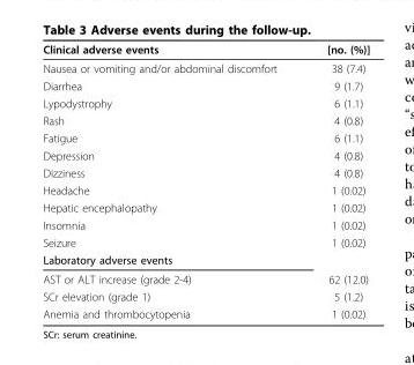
<table><thead><tr><td>Clinical adverse events</td><td>[no. (%)]</td></tr></thead><tbody><tr><td>Nausea or vomiting and/or abdominal discomfort</td><td>38 (7.4)</td></tr><tr><td>Diarrhea</td><td>9 (1.7)</td></tr><tr><td>Lypodystrophy</td><td>6 (1.1)</td></tr><tr><td>Rash</td><td>4 (0.8)</td></tr><tr><td>Fatigue</td><td>6 (1.1)</td></tr><tr><td>Depression</td><td>4 (0.8)</td></tr><tr><td>Dizziness</td><td>4 (0.8)</td></tr><tr><td>Headache</td><td>1 (0.02)</td></tr><tr><td>Hepatic encephalopathy</td><td>1 (0.02)</td></tr><tr><td>Insomnia</td><td>1 (0.02)</td></tr><tr><td>Seizure</td><td>1 (0.02)</td></tr><tr><td colspan="2">Laboratory adverse events</td></tr><tr><td>AST or ALT increase (grade 2-4)</td><td>62 (12.0)</td></tr><tr><td>SCr elevation (grade 1)</td><td>5 (1.2)</td></tr><tr><td>Anemia and thrombocytopenia</td><td>1 (0.02)</td></tr></tbody></table>